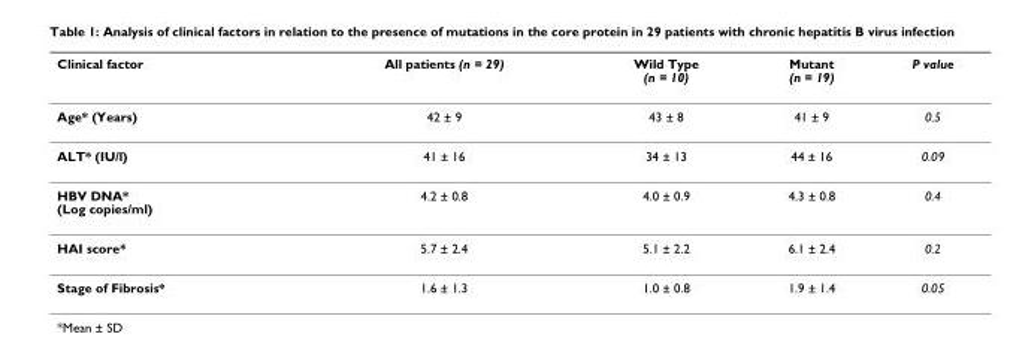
<table><thead><tr><td>Clinical factor</td><td>All patients (n = 29)</td><td>Wild Type (n = 10)</td><td>Mutant (n = 19)</td><td>P value</td></tr></thead><tbody><tr><td>Age* (Years)</td><td>42 ± 9</td><td>43 ± 8</td><td>41 ± 9</td><td>0.5</td></tr><tr><td>ALT* (IU/l)</td><td>41 ± 16</td><td>34 ± 13</td><td>44 ± 16</td><td>0.09</td></tr><tr><td>HBV DNA* (Log copies/ml)</td><td>4.2 ± 0.8</td><td>4.0 ± 0.9</td><td>4.3 ± 0.8</td><td>0.4</td></tr><tr><td>HAI score*</td><td>5.7 ± 2.4</td><td>5.1 ± 2.2</td><td>6.1 ± 2.4</td><td>0.2</td></tr><tr><td>Stage of Fibrosis*</td><td>1.6 ± 1.3</td><td>1.0 ± 0.8</td><td>1.9 ± 1.4</td><td>0.05</td></tr></tbody></table>